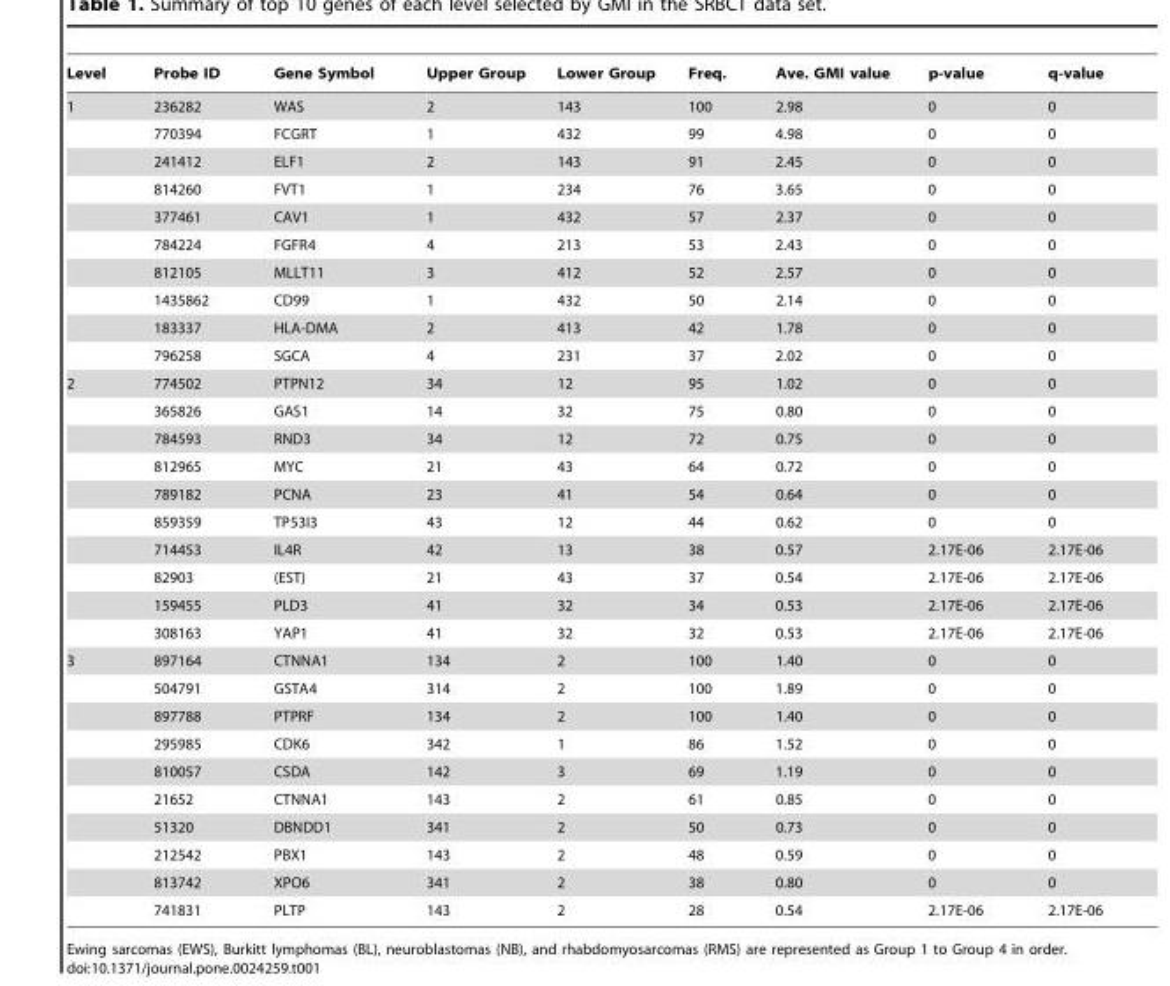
<table><thead><tr><td>Level</td><td>Probe ID</td><td>Gene Symbol</td><td>Upper Group</td><td>Lower Group</td><td>Freq.</td><td>Ave. GMI value</td><td>p-value</td><td>q-value</td></tr></thead><tbody><tr><td rowspan="10">1</td><td>236282</td><td>WAS</td><td>2</td><td>143</td><td>100</td><td>2.98</td><td>0</td><td>0</td></tr><tr><td>770394</td><td>FCGRT</td><td>1</td><td>432</td><td>99</td><td>4.98</td><td>0</td><td>0</td></tr><tr><td>241412</td><td>ELF1</td><td>2</td><td>143</td><td>91</td><td>2.45</td><td>0</td><td>0</td></tr><tr><td>814260</td><td>FVT1</td><td>1</td><td>234</td><td>76</td><td>3.65</td><td>0</td><td>0</td></tr><tr><td>377461</td><td>CAV1</td><td>1</td><td>432</td><td>57</td><td>2.37</td><td>0</td><td>0</td></tr><tr><td>784224</td><td>FGFR4</td><td>4</td><td>213</td><td>53</td><td>2.43</td><td>0</td><td>0</td></tr><tr><td>812105</td><td>MLLT11</td><td>3</td><td>412</td><td>52</td><td>2.57</td><td>0</td><td>0</td></tr><tr><td>1435862</td><td>CD99</td><td>1</td><td>432</td><td>50</td><td>2.14</td><td>0</td><td>0</td></tr><tr><td>183337</td><td>HLA-DMA</td><td>2</td><td>413</td><td>42</td><td>1.78</td><td>0</td><td>0</td></tr><tr><td>796258</td><td>SGCA</td><td>4</td><td>231</td><td>37</td><td>2.02</td><td>0</td><td>0</td></tr><tr><td rowspan="10">2</td><td>774502</td><td>PTPN12</td><td>34</td><td>12</td><td>95</td><td>1.02</td><td>0</td><td>0</td></tr><tr><td>365826</td><td>GAS1</td><td>14</td><td>32</td><td>75</td><td>0.80</td><td>0</td><td>0</td></tr><tr><td>784593</td><td>RND3</td><td>34</td><td>12</td><td>72</td><td>0.75</td><td>0</td><td>0</td></tr><tr><td>812965</td><td>MYC</td><td>21</td><td>43</td><td>64</td><td>0.72</td><td>0</td><td>0</td></tr><tr><td>789182</td><td>PCNA</td><td>23</td><td>41</td><td>54</td><td>0.64</td><td>0</td><td>0</td></tr><tr><td>859359</td><td>TP53I3</td><td>43</td><td>12</td><td>44</td><td>0.62</td><td>0</td><td>0</td></tr><tr><td>714453</td><td>IL4R</td><td>42</td><td>13</td><td>38</td><td>0.57</td><td>2.17E-06</td><td>2.17E-06</td></tr><tr><td>82903</td><td>(EST)</td><td>21</td><td>43</td><td>37</td><td>0.54</td><td>2.17E-06</td><td>2.17E-06</td></tr><tr><td>159455</td><td>PLD3</td><td>41</td><td>32</td><td>34</td><td>0.53</td><td>2.17E-06</td><td>2.17E-06</td></tr><tr><td>308163</td><td>YAP1</td><td>41</td><td>32</td><td>32</td><td>0.53</td><td>2.17E-06</td><td>2.17E-06</td></tr><tr><td rowspan="10">3</td><td>897164</td><td>CTNNA1</td><td>134</td><td>2</td><td>100</td><td>1.40</td><td>0</td><td>0</td></tr><tr><td>504791</td><td>GSTA4</td><td>314</td><td>2</td><td>100</td><td>1.89</td><td>0</td><td>0</td></tr><tr><td>897788</td><td>PTPRF</td><td>134</td><td>2</td><td>100</td><td>1.40</td><td>0</td><td>0</td></tr><tr><td>295985</td><td>CDK6</td><td>342</td><td>1</td><td>86</td><td>1.52</td><td>0</td><td>0</td></tr><tr><td>810057</td><td>CSDA</td><td>142</td><td>3</td><td>69</td><td>1.19</td><td>0</td><td>0</td></tr><tr><td>21652</td><td>CTNNA1</td><td>143</td><td>2</td><td>61</td><td>0.85</td><td>0</td><td>0</td></tr><tr><td>51320</td><td>DBNDD1</td><td>341</td><td>2</td><td>50</td><td>0.73</td><td>0</td><td>0</td></tr><tr><td>212542</td><td>PBX1</td><td>143</td><td>2</td><td>48</td><td>0.59</td><td>0</td><td>0</td></tr><tr><td>813742</td><td>XPO6</td><td>341</td><td>2</td><td>38</td><td>0.80</td><td>0</td><td>0</td></tr><tr><td>741831</td><td>PLTP</td><td>143</td><td>2</td><td>28</td><td>0.54</td><td>2.17E-06</td><td>2.17E-06</td></tr></tbody></table>